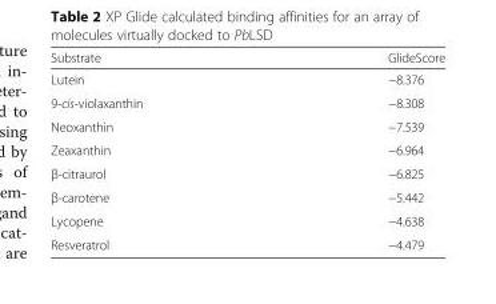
<table><thead><tr><td>Substrate</td><td>GlideScore</td></tr></thead><tbody><tr><td>Lutein</td><td>−8.376</td></tr><tr><td>9-cis-violaxanthin</td><td>−8.308</td></tr><tr><td>Neoxanthin</td><td>−7.539</td></tr><tr><td>Zeaxanthin</td><td>−6.964</td></tr><tr><td>β-citraurol</td><td>−6.825</td></tr><tr><td>β-carotene</td><td>−5.442</td></tr><tr><td>Lycopene</td><td>−4.638</td></tr><tr><td>Resveratrol</td><td>−4.479</td></tr></tbody></table>